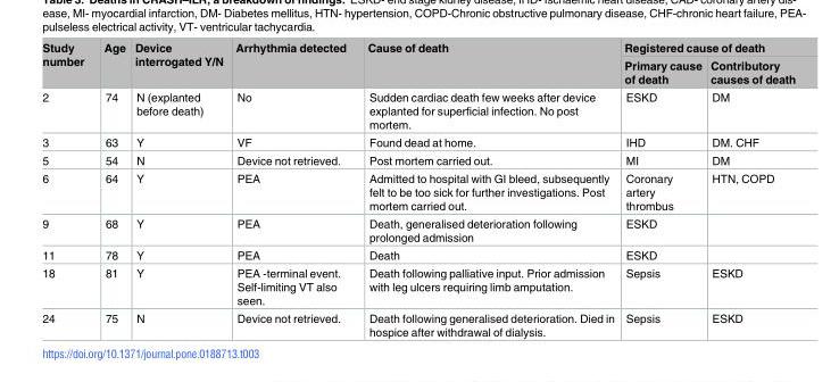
<table><thead><tr><td rowspan="2">Study number</td><td rowspan="2">Age</td><td rowspan="2">Device interrogated Y/N</td><td rowspan="2">Arrhythmia detected</td><td rowspan="2">Cause of death</td><td colspan="2">Registered cause of death</td></tr><tr><td>Primary cause of death</td><td>Contributory causes of death</td></tr></thead><tbody><tr><td>2</td><td>74</td><td>N (explanted before death)</td><td>No</td><td>Sudden cardiac death few weeks after device explanted for superficial infection. No post mortem.</td><td>ESKD</td><td>DM</td></tr><tr><td>3</td><td>63</td><td>Y</td><td>VF</td><td>Found dead at home.</td><td>IHD</td><td>DM. CHF</td></tr><tr><td>5</td><td>54</td><td>N</td><td>Device not retrieved.</td><td>Post mortem carried out.</td><td>MI</td><td>DM</td></tr><tr><td>6</td><td>64</td><td>Y</td><td>PEA</td><td>Admitted to hospital with GI bleed, subsequently felt to be too sick for further investigations. Post mortem carried out.</td><td>Coronary artery thrombus</td><td>HTN, COPD</td></tr><tr><td>9</td><td>68</td><td>Y</td><td>PEA</td><td>Death, generalised deterioration following prolonged admission</td><td>ESKD</td><td></td></tr><tr><td>11</td><td>78</td><td>Y</td><td>PEA</td><td>Death</td><td>ESKD</td><td></td></tr><tr><td>18</td><td>81</td><td>Y</td><td>PEA -terminal event. Self-limiting VT also seen.</td><td>Death following palliative input. Prior admission with leg ulcers requiring limb amputation.</td><td>Sepsis</td><td>ESKD</td></tr><tr><td>24</td><td>75</td><td>N</td><td>Device not retrieved.</td><td>Death following generalised deterioration. Died in hospice after withdrawal of dialysis.</td><td>Sepsis</td><td>ESKD</td></tr></tbody></table>